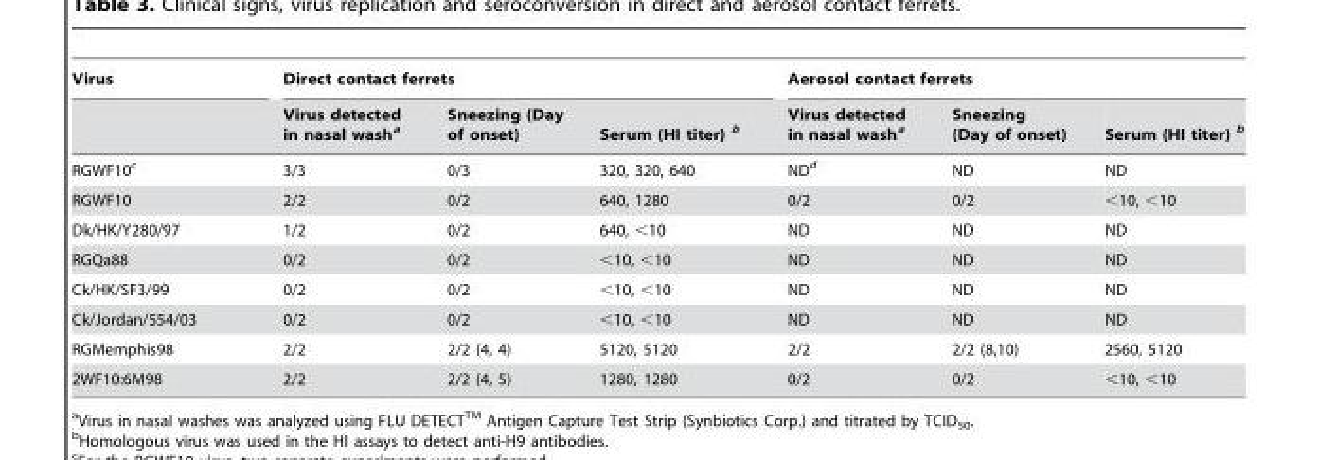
<table><thead><tr><td rowspan="2">Virus</td><td colspan="3">Direct contact ferrets</td><td colspan="3">Aerosol contact ferrets</td></tr><tr><td>Virus detected in nasal wash<sup>a</sup></td><td>Sneezing (Day of onset)</td><td>Serum (HI titer) b</td><td>Virus detected in nasal wash<sup>a</sup></td><td>Sneezing (Day of onset)</td><td>Serum (HI titer) b</td></tr></thead><tbody><tr><td>RGWF10<sup>c</sup></td><td>3/3</td><td>0/3</td><td>320, 320, 640</td><td>ND<sup>d</sup></td><td>ND</td><td>ND</td></tr><tr><td>RGWF10</td><td>2/2</td><td>0/2</td><td>640, 1280</td><td>0/2</td><td>0/2</td><td>&lt;10, &lt;10</td></tr><tr><td>Dk/HK/Y280/97</td><td>1/2</td><td>0/2</td><td>640, &lt;10</td><td>ND</td><td>ND</td><td>ND</td></tr><tr><td>RGQa88</td><td>0/2</td><td>0/2</td><td>&lt;10, &lt;10</td><td>ND</td><td>ND</td><td>ND</td></tr><tr><td>Ck/HK/SF3/99</td><td>0/2</td><td>0/2</td><td>&lt;10, &lt;10</td><td>ND</td><td>ND</td><td>ND</td></tr><tr><td>Ck/Jordan/554/03</td><td>0/2</td><td>0/2</td><td>&lt;10, &lt;10</td><td>ND</td><td>ND</td><td>ND</td></tr><tr><td>RGMemphis98</td><td>2/2</td><td>2/2 (4, 4)</td><td>5120, 5120</td><td>2/2</td><td>2/2 (8,10)</td><td>2560, 5120</td></tr><tr><td>2WF10:6M98</td><td>2/2</td><td>2/2 (4, 5)</td><td>1280, 1280</td><td>0/2</td><td>0/2</td><td>&lt;10, &lt;10</td></tr></tbody></table>